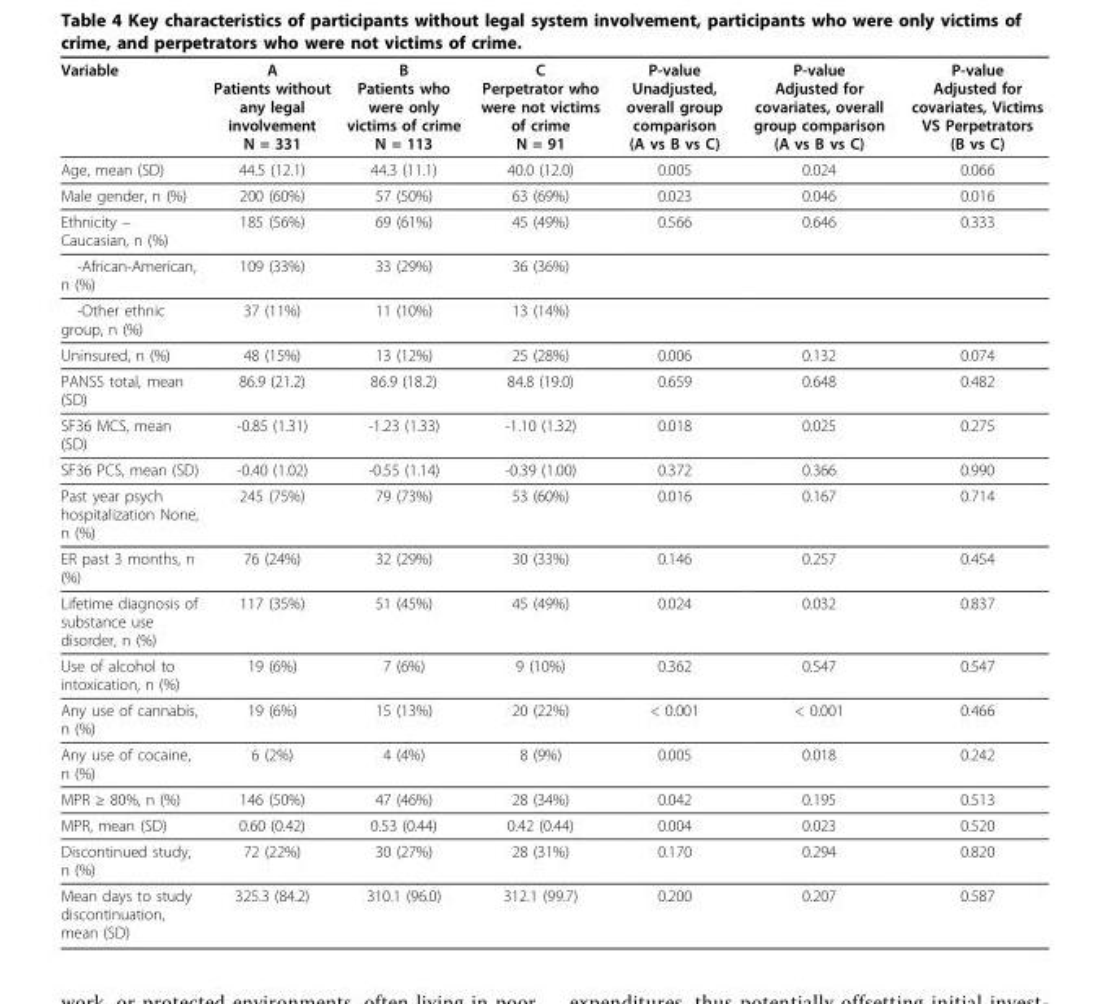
<table><thead><tr><td>Variable</td><td>A Patients without any legal involvement N = 331</td><td>B Patients who were only victims of crime N = 113</td><td>C Perpetrator who were not victims of crime N = 91</td><td>P-value Unadjusted, overall group comparison (A vs B vs C)</td><td>P-value Adjusted for covariates, overall group comparison (A vs B vs C)</td><td>P-value Adjusted for covariates, Victims VS Perpetrators (B vs C)</td></tr></thead><tbody><tr><td>Age, mean (SD)</td><td>44.5 (12.1)</td><td>44.3 (11.1)</td><td>40.0 (12.0)</td><td>0.005</td><td>0.024</td><td>0.066</td></tr><tr><td>Male gender, n (%)</td><td>200 (60%)</td><td>57 (50%)</td><td>63 (69%)</td><td>0.023</td><td>0.046</td><td>0.016</td></tr><tr><td>Ethnicity – Caucasian, n (%)</td><td>185 (56%)</td><td>69 (61%)</td><td>45 (49%)</td><td>0.566</td><td>0.646</td><td>0.333</td></tr><tr><td>-African-American, n (%)</td><td>109 (33%)</td><td>33 (29%)</td><td>36 (36%)</td><td></td><td></td><td></td></tr><tr><td>-Other ethnic group, n (%)</td><td>37 (11%)</td><td>11 (10%)</td><td>13 (14%)</td><td></td><td></td><td></td></tr><tr><td>Uninsured, n (%)</td><td>48 (15%)</td><td>13 (12%)</td><td>25 (28%)</td><td>0.006</td><td>0.132</td><td>0.074</td></tr><tr><td>PANSS total, mean (SD)</td><td>86.9 (21.2)</td><td>86.9 (18.2)</td><td>84.8 (19.0)</td><td>0.659</td><td>0.648</td><td>0.482</td></tr><tr><td>SF36 MCS, mean (SD)</td><td>-0.85 (1.31)</td><td>-1.23 (1.33)</td><td>-1.10 (1.32)</td><td>0.018</td><td>0.025</td><td>0.275</td></tr><tr><td>SF36 PCS, mean (SD)</td><td>-0.40 (1.02)</td><td>-0.55 (1.14)</td><td>-0.39 (1.00)</td><td>0.372</td><td>0.366</td><td>0.990</td></tr><tr><td>Past year psych hospitalization None, n (%)</td><td>245 (75%)</td><td>79 (73%)</td><td>53 (60%)</td><td>0.016</td><td>0.167</td><td>0.714</td></tr><tr><td>ER past 3 months, n (%)</td><td>76 (24%)</td><td>32 (29%)</td><td>30 (33%)</td><td>0.146</td><td>0.257</td><td>0.454</td></tr><tr><td>Lifetime diagnosis of substance use disorder, n (%)</td><td>117 (35%)</td><td>51 (45%)</td><td>45 (49%)</td><td>0.024</td><td>0.032</td><td>0.837</td></tr><tr><td>Use of alcohol to intoxication, n (%)</td><td>19 (6%)</td><td>7 (6%)</td><td>9 (10%)</td><td>0.362</td><td>0.547</td><td>0.547</td></tr><tr><td>Any use of cannabis, n (%)</td><td>19 (6%)</td><td>15 (13%)</td><td>20 (22%)</td><td>&lt; 0.001</td><td>&lt; 0.001</td><td>0.466</td></tr><tr><td>Any use of cocaine, n (%)</td><td>6 (2%)</td><td>4 (4%)</td><td>8 (9%)</td><td>0.005</td><td>0.018</td><td>0.242</td></tr><tr><td>MPR ≥ 80%, n (%)</td><td>146 (50%)</td><td>47 (46%)</td><td>28 (34%)</td><td>0.042</td><td>0.195</td><td>0.513</td></tr><tr><td>MPR, mean (SD)</td><td>0.60 (0.42)</td><td>0.53 (0.44)</td><td>0.42 (0.44)</td><td>0.004</td><td>0.023</td><td>0.520</td></tr><tr><td>Discontinued study, n (%)</td><td>72 (22%)</td><td>30 (27%)</td><td>28 (31%)</td><td>0.170</td><td>0.294</td><td>0.820</td></tr><tr><td>Mean days to study discontinuation, mean (SD)</td><td>325.3 (84.2)</td><td>310.1 (96.0)</td><td>312.1 (99.7)</td><td>0.200</td><td>0.207</td><td>0.587</td></tr></tbody></table>